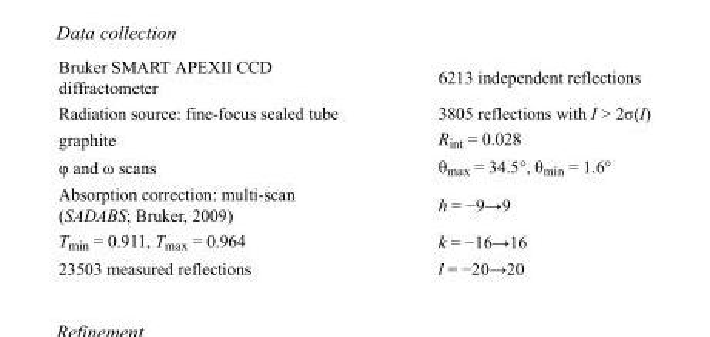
<table><tbody><tr><td>Bruker SMART APEXII CCD diffractometer</td><td>6213 independent reflections</td></tr><tr><td>Radiation source: fine-focus sealed tube</td><td>3805 reflections with I &gt; 2σ(I)</td></tr><tr><td>graphite</td><td>R<sub>int</sub> = 0.028</td></tr><tr><td>φ and ω scans</td><td>θ<sub>max</sub> = 34.5°, θ<sub>min</sub> = 1.6°</td></tr><tr><td>Absorption correction: multi-scan (SADABS; Bruker, 2009)</td><td>h = −9→9</td></tr><tr><td>T<sub>min</sub> = 0.911, T<sub>max</sub> = 0.964</td><td>k = −16→16</td></tr><tr><td>23503 measured reflections</td><td>l = −20→20</td></tr></tbody></table>